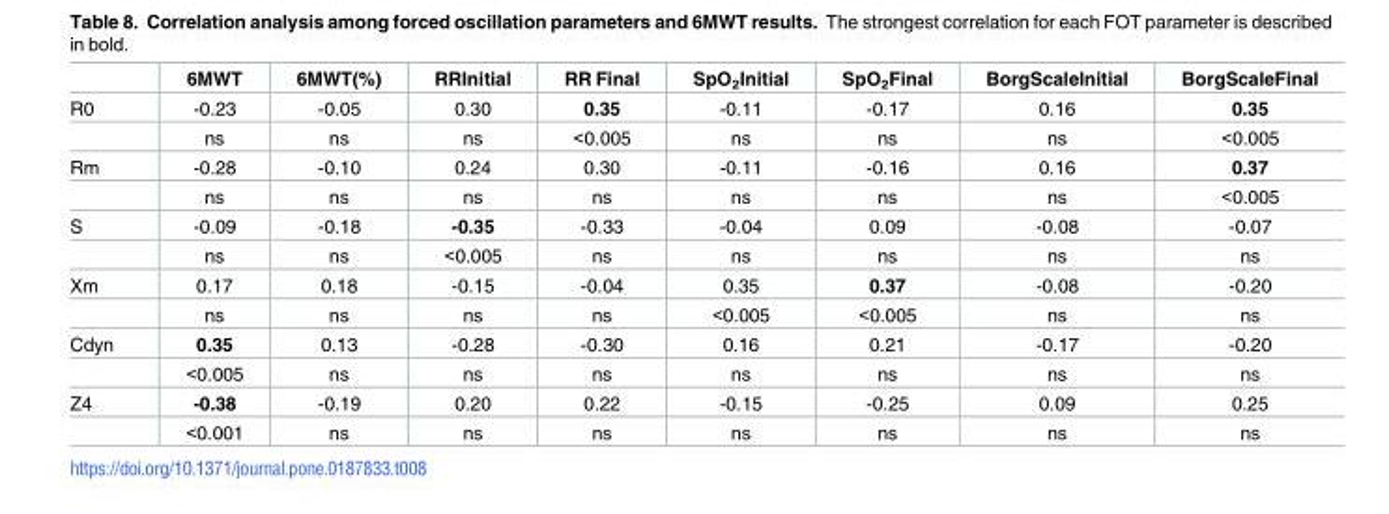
<table><thead><tr><td></td><td>6MWT</td><td>6MWT(%)</td><td>RRInitial</td><td>RR Final</td><td>SpO<sub>2</sub>Initial</td><td>SpO<sub>2</sub>Final</td><td>BorgScaleInitial</td><td>BorgScaleFinal</td></tr></thead><tbody><tr><td rowspan="2">R0</td><td>-0.23</td><td>-0.05</td><td>0.30</td><td>0.35</td><td>-0.11</td><td>-0.17</td><td>0.16</td><td>0.35</td></tr><tr><td>ns</td><td>ns</td><td>ns</td><td>&lt;0.005</td><td>ns</td><td>ns</td><td>ns</td><td>&lt;0.005</td></tr><tr><td rowspan="2">Rm</td><td>-0.28</td><td>-0.10</td><td>0.24</td><td>0.30</td><td>-0.11</td><td>-0.16</td><td>0.16</td><td>0.37</td></tr><tr><td>ns</td><td>ns</td><td>ns</td><td>ns</td><td>ns</td><td>ns</td><td>ns</td><td>&lt;0.005</td></tr><tr><td rowspan="2">S</td><td>-0.09</td><td>-0.18</td><td>-0.35</td><td>-0.33</td><td>-0.04</td><td>0.09</td><td>-0.08</td><td>-0.07</td></tr><tr><td>ns</td><td>ns</td><td>&lt;0.005</td><td>ns</td><td>ns</td><td>ns</td><td>ns</td><td>ns</td></tr><tr><td rowspan="2">Xm</td><td>0.17</td><td>0.18</td><td>-0.15</td><td>-0.04</td><td>0.35</td><td>0.37</td><td>-0.08</td><td>-0.20</td></tr><tr><td>ns</td><td>ns</td><td>ns</td><td>ns</td><td>&lt;0.005</td><td>&lt;0.005</td><td>ns</td><td>ns</td></tr><tr><td rowspan="2">Cdyn</td><td>0.35</td><td>0.13</td><td>-0.28</td><td>-0.30</td><td>0.16</td><td>0.21</td><td>-0.17</td><td>-0.20</td></tr><tr><td>&lt;0.005</td><td>ns</td><td>ns</td><td>ns</td><td>ns</td><td>ns</td><td>ns</td><td>ns</td></tr><tr><td rowspan="2">Z4</td><td>-0.38</td><td>-0.19</td><td>0.20</td><td>0.22</td><td>-0.15</td><td>-0.25</td><td>0.09</td><td>0.25</td></tr><tr><td>&lt;0.001</td><td>ns</td><td>ns</td><td>ns</td><td>ns</td><td>ns</td><td>ns</td><td>ns</td></tr></tbody></table>